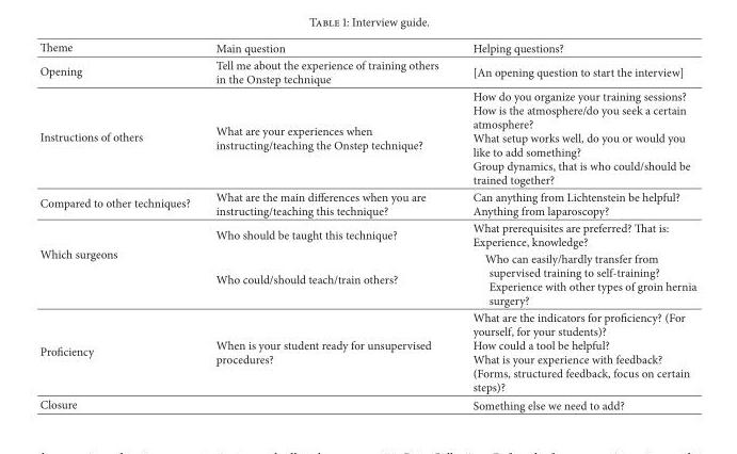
<table><thead><tr><td>Theme</td><td>Main question</td><td>Helping questions?</td></tr></thead><tbody><tr><td>Opening</td><td>Tell me about the experience of training others in the Onstep technique</td><td>[An opening question to start the interview]</td></tr><tr><td>Instructions of others</td><td>What are your experiences when instructing/teaching the Onstep technique?</td><td>How do you organize your training sessions? How is the atmosphere/do you seek a certain atmosphere? What setup works well, do you or would you like to add something? Group dynamics, that is who could/should be trained together?</td></tr><tr><td>Compared to other techniques?</td><td>What are the main differences when you are instructing/teaching this technique?</td><td>Can anything from Lichtenstein be helpful? Anything from laparoscopy?</td></tr><tr><td rowspan="2">Which surgeons</td><td>Who should be taught this technique?</td><td>What prerequisites are preferred? That is: Experience, knowledge?</td></tr><tr><td>Who could/should teach/train others?</td><td>Who can easily/hardly transfer from supervised training to self-training? Experience with other types of groin hernia surgery?</td></tr><tr><td>Proficiency</td><td>When is your student ready for unsupervised procedures?</td><td>What are the indicators for proficiency? (For yourself, for your students)? How could a tool be helpful? What is your experience with feedback? (Forms, structured feedback, focus on certain steps)?</td></tr><tr><td>Closure</td><td></td><td>Something else we need to add?</td></tr></tbody></table>